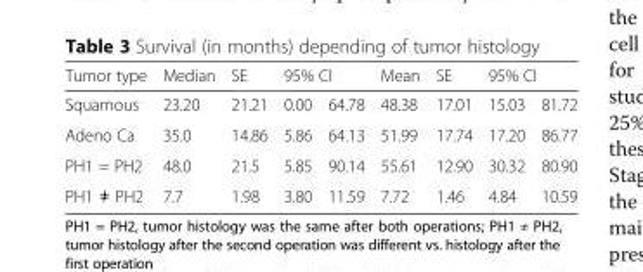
<table><thead><tr><td rowspan="2">Tumor type Squamous</td><td rowspan="2">Median 23.20</td><td rowspan="2">SE 21.21</td><td colspan="2">95% CI</td><td rowspan="2">Mean 48.38</td><td rowspan="2">SE 17.01</td><td colspan="2">95% CI</td></tr><tr><td>0.00</td><td>64.78</td><td>15.03</td><td>81.72</td></tr></thead><tbody><tr><td>Adeno Ca</td><td>35.0</td><td>14.86</td><td>5.86</td><td>64.13</td><td>51.99</td><td>17.74</td><td>17.20</td><td>86.77</td></tr><tr><td>PH1 = PH2</td><td>48.0</td><td>21.5</td><td>5.85</td><td>90.14</td><td>55.61</td><td>12.90</td><td>30.32</td><td>80.90</td></tr><tr><td>PH1 ≠ PH2</td><td>7.7</td><td>1.98</td><td>3.80</td><td>11.59</td><td>7.72</td><td>1.46</td><td>4.84</td><td>10.59</td></tr></tbody></table>